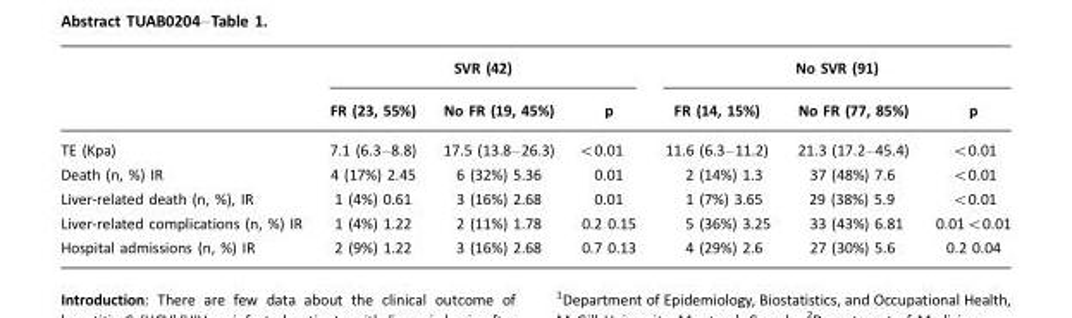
<table><thead><tr><td rowspan="2"></td><td colspan="3">SVR (42)</td><td colspan="3">No SVR (91)</td></tr><tr><td>FR (23, 55%)</td><td>No FR (19, 45%)</td><td>p</td><td>FR (14, 15%)</td><td>No FR (77, 85%)</td><td>p</td></tr></thead><tbody><tr><td>TE (Kpa)</td><td>7.1 (6.3–8.8)</td><td>17.5 (13.8–26.3)</td><td>&lt;0.01</td><td>11.6 (6.3–11.2)</td><td>21.3 (17.2–45.4)</td><td>&lt;0.01</td></tr><tr><td>Death (n, %) IR</td><td>4 (17%) 2.45</td><td>6 (32%) 5.36</td><td>0.01</td><td>2 (14%) 1.3</td><td>37 (48%) 7.6</td><td>&lt;0.01</td></tr><tr><td>Liver-related death (n, %), IR</td><td>1 (4%) 0.61</td><td>3 (16%) 2.68</td><td>0.01</td><td>1 (7%) 3.65</td><td>29 (38%) 5.9</td><td>&lt;0.01</td></tr><tr><td>Liver-related complications (n, %) IR</td><td>1 (4%) 1.22</td><td>2 (11%) 1.78</td><td>0.2 0.15</td><td>5 (36%) 3.25</td><td>33 (43%) 6.81</td><td>0.01&lt;0.01</td></tr><tr><td>Hospital admissions (n, %) IR</td><td>2 (9%) 1.22</td><td>3 (16%) 2.68</td><td>0.7 0.13</td><td>4 (29%) 2.6</td><td>27 (30%) 5.6</td><td>0.2 0.04</td></tr></tbody></table>